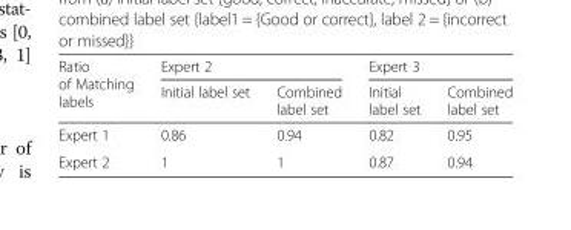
<table><thead><tr><td rowspan="2">Ratio of Matching labels</td><td colspan="2">Expert 2</td><td colspan="2">Expert 3</td></tr><tr><td>Initial label set</td><td>Combined label set</td><td>Initial label set</td><td>Combined label set</td></tr></thead><tbody><tr><td>Expert 1</td><td>0.86</td><td>0.94</td><td>0.82</td><td>0.95</td></tr><tr><td>Expert 2</td><td>1</td><td>1</td><td>0.87</td><td>0.94</td></tr></tbody></table>